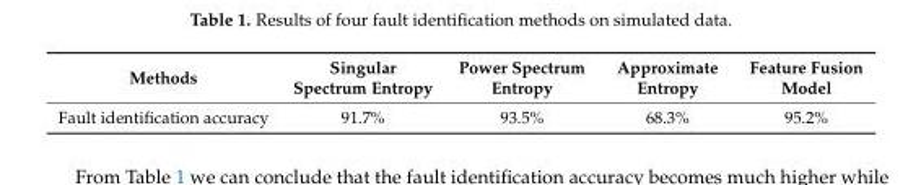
<table><thead><tr><td>Methods</td><td>Singular Spectrum Entropy</td><td>Power Spectrum Entropy</td><td>Approximate Entropy</td><td>Feature Fusion Model</td></tr></thead><tbody><tr><td>Fault identification accuracy</td><td>91.7%</td><td>93.5%</td><td>68.3%</td><td>95.2%</td></tr></tbody></table>